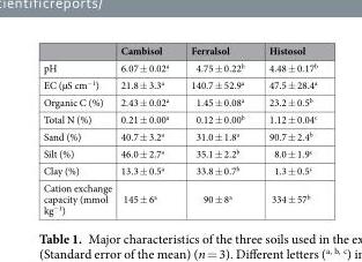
<table><thead><tr><td></td><td>Cambisol</td><td>Ferralsol</td><td>Histosol</td></tr></thead><tbody><tr><td>pH</td><td>6.07 ± 0.02<sup>a</sup></td><td>4.75 ± 0.22<sup>b</sup></td><td>4.48 ± 0.17<sup>b</sup></td></tr><tr><td>EC (µS cm<sup>−1</sup>)</td><td>21.8 ± 3.3<sup>a</sup></td><td>140.7 ± 52.9<sup>a</sup></td><td>47.5 ± 28.4<sup>a</sup></td></tr><tr><td>Organic C (%)</td><td>2.43 ± 0.02<sup>a</sup></td><td>1.45 ± 0.08<sup>a</sup></td><td>23.2 ± 0.5<sup>b</sup></td></tr><tr><td>Total N (%)</td><td>0.21 ± 0.00<sup>a</sup></td><td>0.12 ± 0.00<sup>b</sup></td><td>1.12 ± 0.04<sup>c</sup></td></tr><tr><td>Sand (%)</td><td>40.7 ± 3.2<sup>a</sup></td><td>31.0 ± 1.8<sup>a</sup></td><td>90.7 ± 2.4<sup>b</sup></td></tr><tr><td>Silt (%)</td><td>46.0 ± 2.7<sup>a</sup></td><td>35.1 ± 2.2<sup>b</sup></td><td>8.0 ± 1.9<sup>c</sup></td></tr><tr><td>Clay (%)</td><td>13.3 ± 0.5<sup>a</sup></td><td>33.8 ± 0.7<sup>b</sup></td><td>1.3 ± 0.5<sup>c</sup></td></tr><tr><td>Cation exchange capacity (mmol kg<sup>−1</sup>)</td><td>145 ± 6<sup>a</sup></td><td>90 ± 8<sup>a</sup></td><td>334 ± 57<sup>b</sup></td></tr></tbody></table>